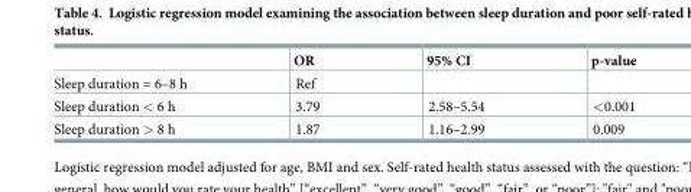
<table><thead><tr><td></td><td>OR</td><td>95% CI</td><td>p-value</td></tr></thead><tbody><tr><td>Sleep duration = 6–8 h</td><td>Ref</td><td></td><td></td></tr><tr><td>Sleep duration &lt; 6 h</td><td>3.79</td><td>2.58–5.54</td><td>&lt;0.001</td></tr><tr><td>Sleep duration &gt; 8 h</td><td>1.87</td><td>1.16–2.99</td><td>0.009</td></tr></tbody></table>